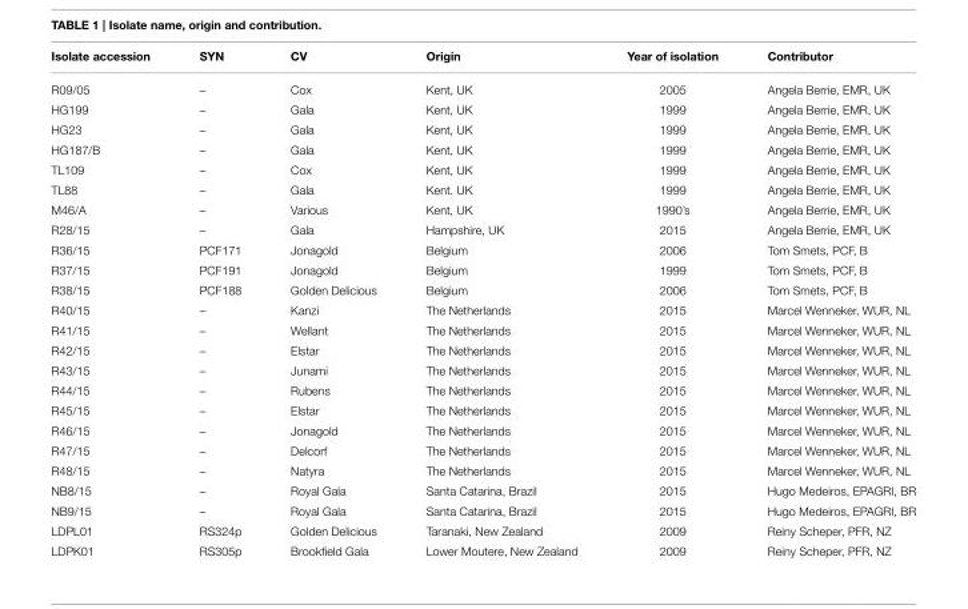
<table><thead><tr><td>Isolate accession</td><td>SYN</td><td>CV</td><td>Origin</td><td>Year of isolation</td><td>Contributor</td></tr></thead><tbody><tr><td>R09/05</td><td>–</td><td>Cox</td><td>Kent, UK</td><td>2005</td><td>Angela Berrie, EMR, UK</td></tr><tr><td>HG199</td><td>–</td><td>Gala</td><td>Kent, UK</td><td>1999</td><td>Angela Berrie, EMR, UK</td></tr><tr><td>HG23</td><td>–</td><td>Gala</td><td>Kent, UK</td><td>1999</td><td>Angela Berrie, EMR, UK</td></tr><tr><td>HG187/B</td><td>–</td><td>Gala</td><td>Kent, UK</td><td>1999</td><td>Angela Berrie, EMR, UK</td></tr><tr><td>TL109</td><td>–</td><td>Cox</td><td>Kent, UK</td><td>1999</td><td>Angela Berrie, EMR, UK</td></tr><tr><td>TL88</td><td>–</td><td>Gala</td><td>Kent. UK</td><td>1999</td><td>Angela Berrie, EMR, UK</td></tr><tr><td>M46/A</td><td>–</td><td>Various</td><td>Kent, UK</td><td>1990’s</td><td>Angela Berrie, EMR, UK</td></tr><tr><td>R28/15</td><td>–</td><td>Gala</td><td>Hampshire, UK</td><td>2015</td><td>Angela Berrie, EMR, UK</td></tr><tr><td>R36/15</td><td>PCF171</td><td>Jonagold</td><td>Belgium</td><td>2006</td><td>Tom Smets, PCF, B</td></tr><tr><td>R37/15</td><td>PCF191</td><td>Jonagold</td><td>Belgium</td><td>1999</td><td>Tom Smets, PCF, B</td></tr><tr><td>R38/15</td><td>PCF188</td><td>Golden Delicious</td><td>Belgium</td><td>2006</td><td>Tom Smets, PCF, B</td></tr><tr><td>R40/15</td><td>–</td><td>Kanzi</td><td>The Netherlands</td><td>2015</td><td>Marcel Wenneker, WUR, NL</td></tr><tr><td>R41/15</td><td>–</td><td>Wellant</td><td>The Netherlands</td><td>2015</td><td>Marcel Wenneker, WUR, NL</td></tr><tr><td>R42/15</td><td>–</td><td>Elstar</td><td>The Netherlands</td><td>2015</td><td>Marcel Wenneker, WUR, NL</td></tr><tr><td>R43/15</td><td>–</td><td>Junami</td><td>The Netherlands</td><td>2015</td><td>Marcel Wenneker, WUR, NL</td></tr><tr><td>R44/15</td><td>–</td><td>Rubens</td><td>The Netherlands</td><td>2015</td><td>Marcel Wenneker, WUR, NL</td></tr><tr><td>R45/15</td><td>–</td><td>Elstar</td><td>The Netherlands</td><td>2015</td><td>Marcel Wenneker, WUR, NL</td></tr><tr><td>R46/15</td><td>–</td><td>Jonagold</td><td>The Netherlands</td><td>2015</td><td>Marcel Wenneker, WUR, NL</td></tr><tr><td>R47/15</td><td>–</td><td>Delcorf</td><td>The Netherlands</td><td>2015</td><td>Marcel Wenneker, WUR, NL</td></tr><tr><td>R48/15</td><td>–</td><td>Natyra</td><td>The Netherlands</td><td>2015</td><td>Marcel Wenneker, WUR, NL</td></tr><tr><td>NB8/15</td><td>–</td><td>Royal Gala</td><td>Santa Catarina, Brazil</td><td>2015</td><td>Hugo Medeiros, EPAGRI, BR</td></tr><tr><td>NB9/15</td><td>–</td><td>Royal Gala</td><td>Santa Catarina, Brazil</td><td>2015</td><td>Hugo Medeiros, EPAGRI, BR</td></tr><tr><td>LDPL01</td><td>RS324p</td><td>Golden Delicious</td><td>Taranaki, New Zealand</td><td>2009</td><td>Reiny Scheper, PFR, NZ</td></tr><tr><td>LDPK01</td><td>RS305p</td><td>Brookfield Gala</td><td>Lower Moutere, New Zealand</td><td>2009</td><td>Reiny Scheper, PFR, NZ</td></tr></tbody></table>